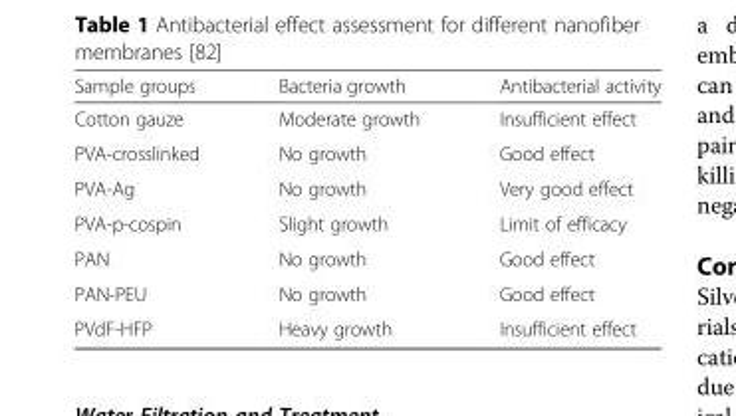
<table><thead><tr><td>Sample groups</td><td>Bacteria growth</td><td>Antibacterial activity</td></tr></thead><tbody><tr><td>Cotton gauze</td><td>Moderate growth</td><td>Insufficient effect</td></tr><tr><td>PVA-crosslinked</td><td>No growth</td><td>Good effect</td></tr><tr><td>PVA-Ag</td><td>No growth</td><td>Very good effect</td></tr><tr><td>PVA-p-cospin</td><td>Slight growth</td><td>Limit of efficacy</td></tr><tr><td>PAN</td><td>No growth</td><td>Good effect</td></tr><tr><td>PAN-PEU</td><td>No growth</td><td>Good effect</td></tr><tr><td>PVdF-HFP</td><td>Heavy growth</td><td>Insufficient effect</td></tr></tbody></table>